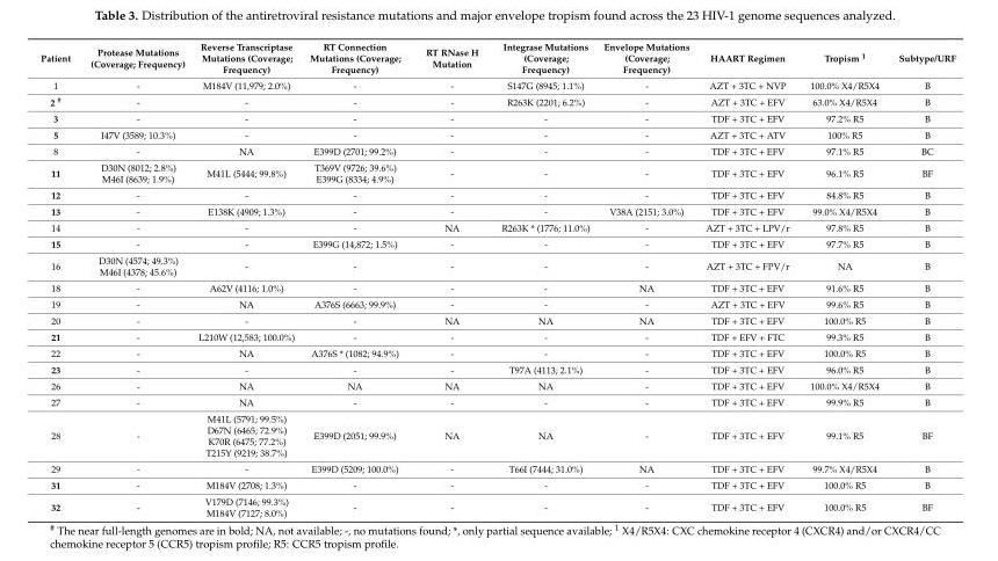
<table><thead><tr><td>Patient</td><td>Protease Mutations (Coverage; Frequency)</td><td>Reverse Transcriptase Mutations (Coverage; Frequency)</td><td>RT Connection Mutations (Coverage; Frequency)</td><td>RT RNase H Mutation</td><td>Integrase Mutations (Coverage; Frequency)</td><td>Envelope Mutations (Coverage; Frequency)</td><td>HAART Regimen</td><td>Tropism <sup>1</sup></td><td>Subtype/URF</td></tr></thead><tbody><tr><td>1</td><td>-</td><td>M184V (11,979; 2.0%)</td><td>-</td><td>-</td><td>S147G (8945; 1.1%)</td><td>-</td><td>AZT + 3TC + NVP</td><td>100.0% X4/R5X4</td><td>B</td></tr><tr><td>2 <sup>#</sup></td><td>-</td><td>-</td><td>-</td><td>-</td><td>R263K (2201; 6.2%)</td><td>-</td><td>AZT + 3TC + EFV</td><td>63.0% X4/R5X4</td><td>B</td></tr><tr><td>3</td><td>-</td><td>-</td><td>-</td><td>-</td><td>-</td><td>-</td><td>TDF + 3TC + EFV</td><td>97.2% R5</td><td>B</td></tr><tr><td>5</td><td>I47V (3589; 10.3%)</td><td>-</td><td>-</td><td>-</td><td>-</td><td>-</td><td>AZT + 3TC + ATV</td><td>100% R5</td><td>B</td></tr><tr><td>8</td><td>-</td><td>NA</td><td>E399D (2701; 99.2%)</td><td>-</td><td>-</td><td>-</td><td>TDF + 3TC + EFV</td><td>97.1% R5</td><td>BC</td></tr><tr><td>11</td><td>D30N (8012; 2.8%) M46I (8639; 1.9%)</td><td>M41L (5444; 99.8%)</td><td>T369V (9726; 39.6%) E399G (8334; 4.9%)</td><td>-</td><td>-</td><td>-</td><td>TDF + 3TC + EFV</td><td>96.1% R5</td><td>BF</td></tr><tr><td>12</td><td>-</td><td>-</td><td>-</td><td>-</td><td>-</td><td>-</td><td>TDF + 3TC + EFV</td><td>84.8% R5</td><td>B</td></tr><tr><td>13</td><td>-</td><td>E138K (4909; 1.3%)</td><td>-</td><td>-</td><td>-</td><td>V38A (2151; 3.0%)</td><td>TDF + 3TC + EFV</td><td>99.0% X4/R5X4</td><td>B</td></tr><tr><td>14</td><td>-</td><td>-</td><td>-</td><td>NA</td><td>R263K * (1776; 11.0%)</td><td>-</td><td>AZT + 3TC + LPV/r</td><td>97.8% R5</td><td>B</td></tr><tr><td>15</td><td>-</td><td>-</td><td>E399G (14,872; 1.5%)</td><td>-</td><td>-</td><td>-</td><td>TDF + 3TC + EFV</td><td>97.7% R5</td><td>B</td></tr><tr><td>16</td><td>D30N (4574; 49.3%) M46I (4378; 45.6%)</td><td>-</td><td>-</td><td>-</td><td>-</td><td>-</td><td>AZT + 3TC + FPV/r</td><td>NA</td><td>B</td></tr><tr><td>18</td><td>-</td><td>A62V (4116; 1.0%)</td><td>-</td><td>-</td><td>-</td><td>NA</td><td>TDF + 3TC + EFV</td><td>91.6% R5</td><td>B</td></tr><tr><td>19</td><td>-</td><td>NA</td><td>A376S (6663; 99.9%)</td><td>-</td><td>-</td><td>-</td><td>AZT + 3TC + EFV</td><td>99.6% R5</td><td>B</td></tr><tr><td>20</td><td>-</td><td>-</td><td>-</td><td>NA</td><td>NA</td><td>NA</td><td>TDF + 3TC + EFV</td><td>100.0% R5</td><td>B</td></tr><tr><td>21</td><td>-</td><td>L210W (12,583; 100.0%)</td><td>-</td><td>-</td><td>-</td><td>-</td><td>TDF + EFV + FTC</td><td>99.3% R5</td><td>B</td></tr><tr><td>22</td><td>-</td><td>NA</td><td>A376S * (1082; 94.9%)</td><td>-</td><td>-</td><td>-</td><td>TDF + 3TC + EFV</td><td>100.0% R5</td><td>B</td></tr><tr><td>23</td><td>-</td><td>-</td><td>-</td><td>-</td><td>T97A (4113; 2.1%)</td><td>-</td><td>TDF + 3TC + EFV</td><td>96.0% R5</td><td>B</td></tr><tr><td>26</td><td>-</td><td>NA</td><td>NA</td><td>NA</td><td>NA</td><td>-</td><td>TDF + 3TC + EFV</td><td>100.0% X4/R5X4</td><td>B</td></tr><tr><td>27</td><td>-</td><td>NA</td><td>-</td><td>-</td><td>-</td><td>-</td><td>TDF + 3TC + EFV</td><td>99.9% R5</td><td>B</td></tr><tr><td>28</td><td>-</td><td>M41L (5791; 99.5%) D67N (6465; 72.9%) K70R (6475; 77.2%) T215Y (9219; 38.7%)</td><td>E399D (2051; 99.9%)</td><td>NA</td><td>NA</td><td>-</td><td>TDF + 3TC + EFV</td><td>99.1% R5</td><td>BF</td></tr><tr><td>29</td><td>-</td><td>-</td><td>E399D (5209; 100.0%)</td><td>-</td><td>T66I (7444; 31.0%)</td><td>NA</td><td>TDF + 3TC + EFV</td><td>99.7% X4/R5X4</td><td>B</td></tr><tr><td>31</td><td>-</td><td>M184V (2708; 1.3%)</td><td>-</td><td>-</td><td>-</td><td>-</td><td>TDF + 3TC + EFV</td><td>100.0% R5</td><td>B</td></tr><tr><td>32</td><td>-</td><td>V179D (7146; 99.3%) M184V (7127; 8.0%)</td><td>-</td><td>-</td><td>-</td><td>-</td><td>TDF + 3TC + EFV</td><td>100.0% R5</td><td>BF</td></tr></tbody></table>